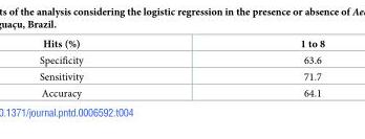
<table><thead><tr><td>Hits (%)</td><td>1 to 8</td></tr></thead><tbody><tr><td>Specificity</td><td>63.6</td></tr><tr><td>Sensitivity</td><td>71.7</td></tr><tr><td>Accuracy</td><td>64.1</td></tr></tbody></table>